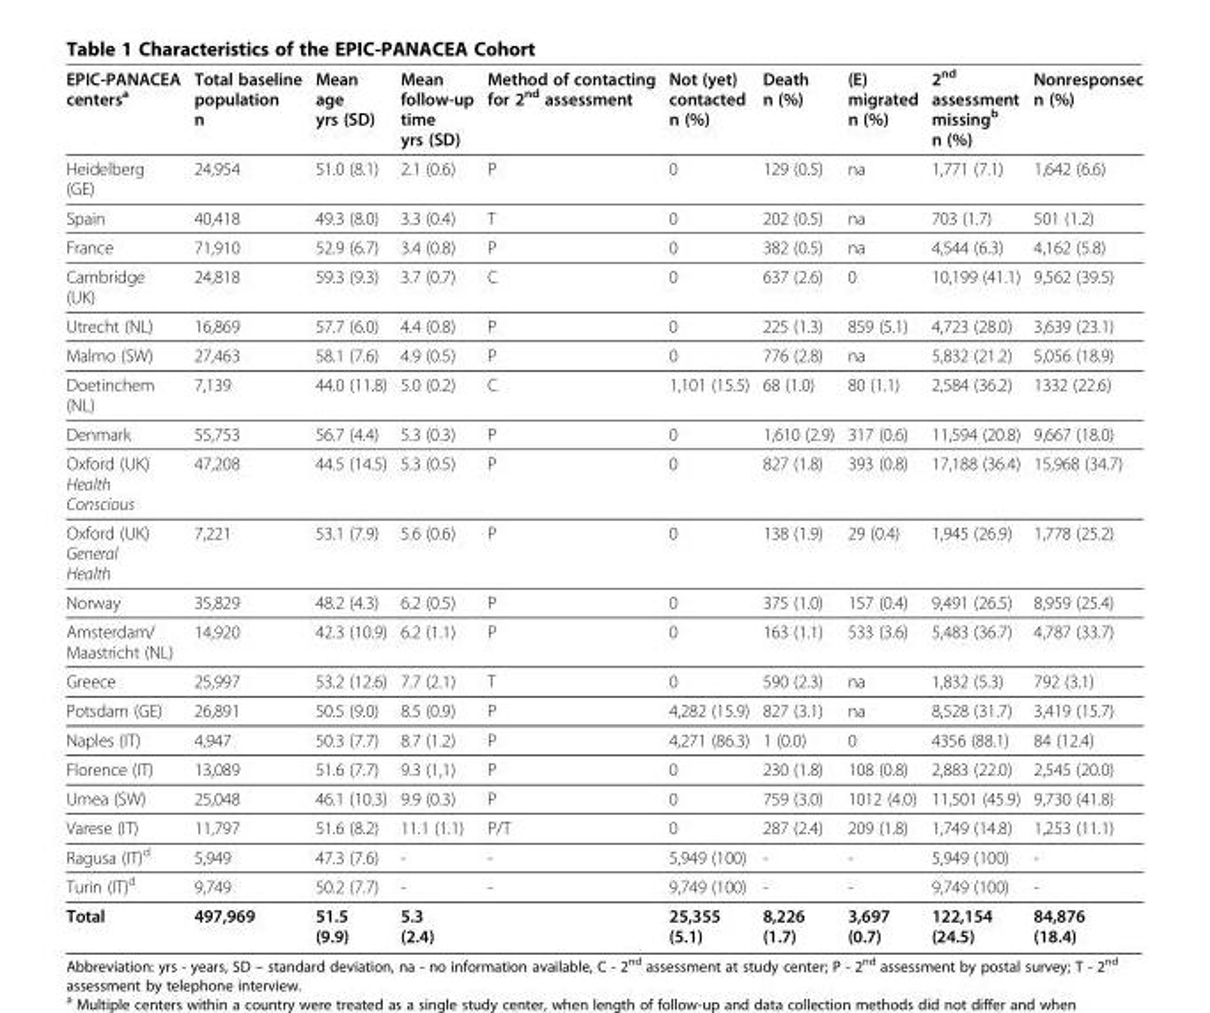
<table><thead><tr><td>EPIC-PANACEA centers<sup>a</sup></td><td>Total baseline population n</td><td>Mean age yrs (SD)</td><td>Mean follow-up time yrs (SD)</td><td>Method of contacting for 2<sup>nd</sup> assessment</td><td>Not (yet) contacted n (%)</td><td>Death n (%)</td><td>(E) migrated n (%)</td><td>2<sup>nd</sup> assessment missing<sup>b</sup> n (%)</td><td>Nonresponsec n (%)</td></tr></thead><tbody><tr><td>Heidelberg (GE)</td><td>24,954</td><td>51.0 (8.1)</td><td>2.1 (0.6)</td><td>P</td><td>0</td><td>129 (0.5)</td><td>na</td><td>1,771 (7.1)</td><td>1,642 (6.6)</td></tr><tr><td>Spain</td><td>40,418</td><td>49.3 (8.0)</td><td>3.3 (0.4)</td><td>T</td><td>0</td><td>202 (0.5)</td><td>na</td><td>703 (1.7)</td><td>501 (1.2)</td></tr><tr><td>France</td><td>71,910</td><td>52.9 (6.7)</td><td>3.4 (0.8)</td><td>P</td><td>0</td><td>382 (0.5)</td><td>na</td><td>4,544 (6.3)</td><td>4,162 (5.8)</td></tr><tr><td>Cambridge (UK)</td><td>24,818</td><td>59.3 (9.3)</td><td>3.7 (0.7)</td><td>C</td><td>0</td><td>637 (2.6)</td><td>0</td><td>10,199 (41.1)</td><td>9,562 (39.5)</td></tr><tr><td>Utrecht (NL)</td><td>16,869</td><td>57.7 (6.0)</td><td>4.4 (0.8)</td><td>P</td><td>0</td><td>225 (1.3)</td><td>859 (5.1)</td><td>4,723 (28.0)</td><td>3,639 (23.1)</td></tr><tr><td>Malmo (SW)</td><td>27,463</td><td>58.1 (7.6)</td><td>4.9 (0.5)</td><td>P</td><td>0</td><td>776 (2.8)</td><td>na</td><td>5,832 (21.2)</td><td>5,056 (18.9)</td></tr><tr><td>Doetinchem (NL)</td><td>7,139</td><td>44.0 (11.8)</td><td>5.0 (0.2)</td><td>C</td><td>1,101 (15.5)</td><td>68 (1.0)</td><td>80 (1.1)</td><td>2,584 (36.2)</td><td>1332 (22.6)</td></tr><tr><td>Denmark</td><td>55,753</td><td>56.7 (4.4)</td><td>5.3 (0.3)</td><td>P</td><td>0</td><td>1,610 (2.9)</td><td>317 (0.6)</td><td>11,594 (20.8)</td><td>9,667 (18.0)</td></tr><tr><td>Oxford (UK) Health Conscious</td><td>47,208</td><td>44.5 (14.5)</td><td>5.3 (0.5)</td><td>P</td><td>0</td><td>827 (1.8)</td><td>393 (0.8)</td><td>17,188 (36.4)</td><td>15,968 (34.7)</td></tr><tr><td>Oxford (UK) General Health</td><td>7,221</td><td>53.1 (7.9)</td><td>5.6 (0.6)</td><td>P</td><td>0</td><td>138 (1.9)</td><td>29 (0.4)</td><td>1,945 (26.9)</td><td>1,778 (25.2)</td></tr><tr><td>Norway</td><td>35,829</td><td>48.2 (4.3)</td><td>6.2 (0.5)</td><td>P</td><td>0</td><td>375 (1.0)</td><td>157 (0.4)</td><td>9,491 (26.5)</td><td>8,959 (25.4)</td></tr><tr><td>Amsterdam/ Maastricht (NL)</td><td>14,920</td><td>42.3 (10.9)</td><td>6.2 (1.1)</td><td>P</td><td>0</td><td>163 (1.1)</td><td>533 (3.6)</td><td>5,483 (36.7)</td><td>4,787 (33.7)</td></tr><tr><td>Greece</td><td>25,997</td><td>53.2 (12.6)</td><td>7.7 (2.1)</td><td>T</td><td>0</td><td>590 (2.3)</td><td>na</td><td>1,832 (5.3)</td><td>792 (3.1)</td></tr><tr><td>Potsdam (GE)</td><td>26,891</td><td>50.5 (9.0)</td><td>8.5 (0.9)</td><td>P</td><td>4,282 (15.9)</td><td>827 (3.1)</td><td>na</td><td>8,528 (31.7)</td><td>3,419 (15.7)</td></tr><tr><td>Naples (IT)</td><td>4,947</td><td>50.3 (7.7)</td><td>8.7 (1.2)</td><td>P</td><td>4,271 (86.3)</td><td>1 (0.0)</td><td>0</td><td>4356 (88.1)</td><td>84 (12.4)</td></tr><tr><td>Florence (IT)</td><td>13,089</td><td>51.6 (7.7)</td><td>9.3 (1,1)</td><td>P</td><td>0</td><td>230 (1.8)</td><td>108 (0.8)</td><td>2,883 (22.0)</td><td>2,545 (20.0)</td></tr><tr><td>Umea (SW)</td><td>25,048</td><td>46.1 (10.3)</td><td>9.9 (0.3)</td><td>P</td><td>0</td><td>759 (3.0)</td><td>1012 (4.0)</td><td>11,501 (45.9)</td><td>9,730 (41.8)</td></tr><tr><td>Varese (IT)</td><td>11,797</td><td>51.6 (8.2)</td><td>11.1 (1.1)</td><td>P/T</td><td>0</td><td>287 (2.4)</td><td>209 (1.8)</td><td>1,749 (14.8)</td><td>1,253 (11.1)</td></tr><tr><td>Ragusa (IT)<sup>d</sup></td><td>5,949</td><td>47.3 (7.6)</td><td>-</td><td>-</td><td>5,949 (100)</td><td>-</td><td>-</td><td>5,949 (100)</td><td>-</td></tr><tr><td>Turin (IT)<sup>d</sup></td><td>9,749</td><td>50.2 (7.7)</td><td>-</td><td>-</td><td>9,749 (100)</td><td>-</td><td>-</td><td>9,749 (100)</td><td>-</td></tr><tr><td>Total</td><td>497,969</td><td>51.5 (9.9)</td><td>5.3 (2.4)</td><td></td><td>25,355 (5.1)</td><td>8,226 (1.7)</td><td>3,697 (0.7)</td><td>122,154 (24.5)</td><td>84,876 (18.4)</td></tr></tbody></table>